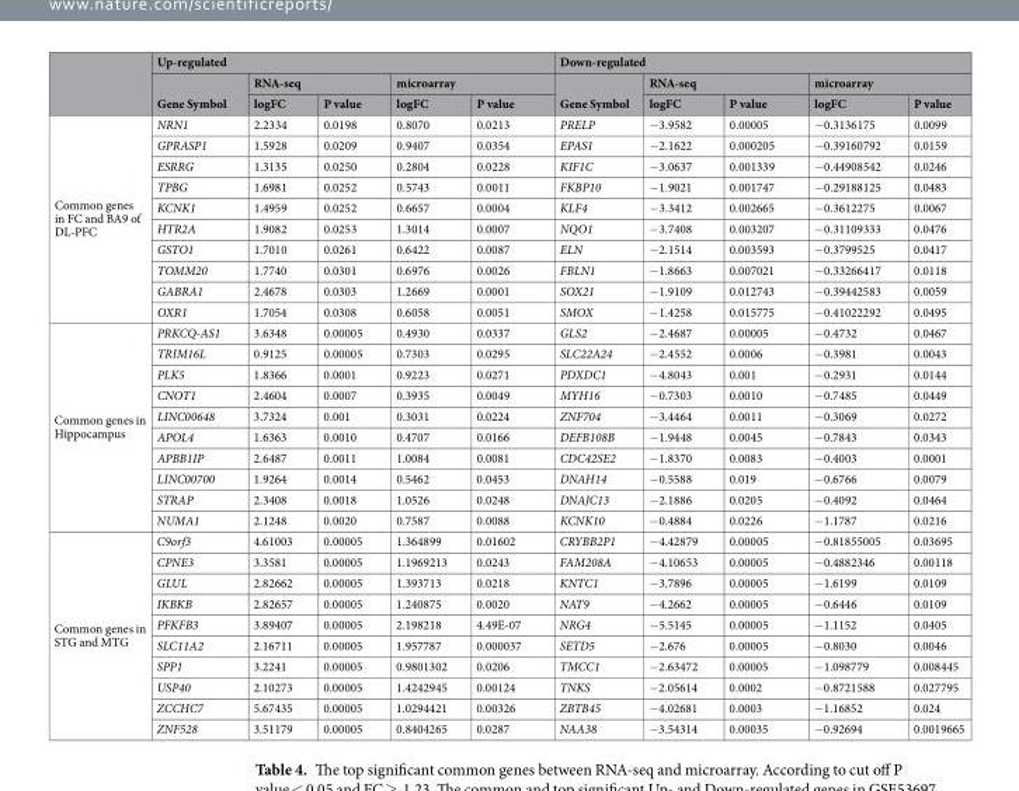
<table><thead><tr><td rowspan="3"></td><td colspan="5">Up-regulated</td><td colspan="5">Down-regulated</td></tr><tr><td rowspan="2">Gene Symbol</td><td colspan="2">RNA-seq</td><td colspan="2">microarray</td><td rowspan="2">Gene Symbol</td><td colspan="2">RNA-seq</td><td colspan="2">microarray</td></tr><tr><td>logFC</td><td>P value</td><td>logFC</td><td>P value</td><td>logFC</td><td>P value</td><td>logFC</td><td>P value</td></tr></thead><tbody><tr><td rowspan="10">Common genes in FC and BA9 of DL-PFC</td><td>NRN1</td><td>2.2334</td><td>0.0198</td><td>0.8070</td><td>0.0213</td><td>PRELP</td><td>−3.9582</td><td>0.00005</td><td>−0.3136175</td><td>0.0099</td></tr><tr><td>GPRASP1</td><td>1.5928</td><td>0.0209</td><td>0.9407</td><td>0.0354</td><td>EPAS1</td><td>−2.1622</td><td>0.000205</td><td>−0.39160792</td><td>0.0159</td></tr><tr><td>ESRRG</td><td>1.3135</td><td>0.0250</td><td>0.2804</td><td>0.0228</td><td>KIF1C</td><td>−3.0637</td><td>0.001339</td><td>−0.44908542</td><td>0.0246</td></tr><tr><td>TPBG</td><td>1.6981</td><td>0.0252</td><td>0.5743</td><td>0.0011</td><td>FKBP10</td><td>−1.9021</td><td>0.001747</td><td>−0.29188125</td><td>0.0483</td></tr><tr><td>KCNK1</td><td>1.4959</td><td>0.0252</td><td>0.6657</td><td>0.0004</td><td>KLF4</td><td>−3.3412</td><td>0.002665</td><td>−0.3612275</td><td>0.0067</td></tr><tr><td>HTR2A</td><td>1.9082</td><td>0.0253</td><td>1.3014</td><td>0.0007</td><td>NQO1</td><td>−3.7408</td><td>0.003207</td><td>−0.31109333</td><td>0.0476</td></tr><tr><td>GSTO1</td><td>1.7010</td><td>0.0261</td><td>0.6422</td><td>0.0087</td><td>ELN</td><td>−2.1514</td><td>0.003593</td><td>−0.3799525</td><td>0.0417</td></tr><tr><td>TOMM20</td><td>1.7740</td><td>0.0301</td><td>0.6976</td><td>0.0026</td><td>FBLN1</td><td>−1.8663</td><td>0.007021</td><td>−0.33266417</td><td>0.0118</td></tr><tr><td>GABRA1</td><td>2.4678</td><td>0.0303</td><td>1.2669</td><td>0.0001</td><td>SOX21</td><td>−1.9109</td><td>0.012743</td><td>−0.39442583</td><td>0.0059</td></tr><tr><td>OXR1</td><td>1.7054</td><td>0.0308</td><td>0.6058</td><td>0.0051</td><td>SMOX</td><td>−1.4258</td><td>0.015775</td><td>−0.41022292</td><td>0.0495</td></tr><tr><td rowspan="10">Common genes in Hippocampus</td><td>PRKCQ-AS1</td><td>3.6348</td><td>0.00005</td><td>0.4930</td><td>0.0337</td><td>GLS2</td><td>−2.4687</td><td>0.00005</td><td>−0.4732</td><td>0.0467</td></tr><tr><td>TRIM16L</td><td>0.9125</td><td>0.00005</td><td>0.7303</td><td>0.0295</td><td>SLC22A24</td><td>−2.4552</td><td>0.0006</td><td>−0.3981</td><td>0.0043</td></tr><tr><td>PLK5</td><td>1.8366</td><td>0.0001</td><td>0.9223</td><td>0.0271</td><td>PDXDC1</td><td>−4.8043</td><td>0.001</td><td>−0.2931</td><td>0.0144</td></tr><tr><td>CNOT1</td><td>2.4604</td><td>0.0007</td><td>0.3935</td><td>0.0049</td><td>MYH16</td><td>−0.7303</td><td>0.0010</td><td>−0.7485</td><td>0.0449</td></tr><tr><td>LINC00648</td><td>3.7324</td><td>0.001</td><td>0.3031</td><td>0.0224</td><td>ZNF704</td><td>−3.4464</td><td>0.0011</td><td>−0.3069</td><td>0.0272</td></tr><tr><td>APOL4</td><td>1.6363</td><td>0.0010</td><td>0.4707</td><td>0.0166</td><td>DEFB108B</td><td>−1.9448</td><td>0.0045</td><td>−0.7843</td><td>0.0343</td></tr><tr><td>APBB1IP</td><td>2.6487</td><td>0.0011</td><td>1.0084</td><td>0.0081</td><td>CDC42SE2</td><td>−1.8370</td><td>0.0083</td><td>−0.4003</td><td>0.0001</td></tr><tr><td>LINC00700</td><td>1.9264</td><td>0.0014</td><td>0.5462</td><td>0.0453</td><td>DNAH14</td><td>−0.5588</td><td>0.019</td><td>−0.6766</td><td>0.0079</td></tr><tr><td>STRAP</td><td>2.3408</td><td>0.0018</td><td>1.0526</td><td>0.0248</td><td>DNAJC13</td><td>−2.1886</td><td>0.0205</td><td>−0.4092</td><td>0.0464</td></tr><tr><td>NUMA1</td><td>2.1248</td><td>0.0020</td><td>0.7587</td><td>0.0088</td><td>KCNK10</td><td>−0.4884</td><td>0.0226</td><td>−1.1787</td><td>0.0216</td></tr><tr><td rowspan="10">Common genes in STG and MTG</td><td>C9orf3</td><td>4.61003</td><td>0.00005</td><td>1.364899</td><td>0.01602</td><td>CRYBB2P1</td><td>−4.42879</td><td>0.00005</td><td>−0.81855005</td><td>0.03695</td></tr><tr><td>CPNE3</td><td>3.3581</td><td>0.00005</td><td>1.1969213</td><td>0.0243</td><td>FAM208A</td><td>−4.10653</td><td>0.00005</td><td>−0.4882346</td><td>0.00118</td></tr><tr><td>GLUL</td><td>2.82662</td><td>0.00005</td><td>1.393713</td><td>0.0218</td><td>KNTC1</td><td>−3.7896</td><td>0.00005</td><td>−1.6199</td><td>0.0109</td></tr><tr><td>IKBKB</td><td>2.82657</td><td>0.00005</td><td>1.240875</td><td>0.0020</td><td>NAT9</td><td>−4.2662</td><td>0.00005</td><td>−0.6446</td><td>0.0109</td></tr><tr><td>PFKFB3</td><td>3.89407</td><td>0.00005</td><td>2.198218</td><td>4.49E-07</td><td>NRG4</td><td>−5.5145</td><td>0.00005</td><td>−1.1152</td><td>0.0405</td></tr><tr><td>SLC11A2</td><td>2.16711</td><td>0.00005</td><td>1.957787</td><td>0.000037</td><td>SETD5</td><td>−2.676</td><td>0.00005</td><td>−0.8030</td><td>0.0046</td></tr><tr><td>SPP1</td><td>3.2241</td><td>0.00005</td><td>0.9801302</td><td>0.0206</td><td>TMCC1</td><td>−2.63472</td><td>0.00005</td><td>−1.098779</td><td>0.008445</td></tr><tr><td>USP40</td><td>2.10273</td><td>0.00005</td><td>1.4242945</td><td>0.00124</td><td>TNKS</td><td>−2.05614</td><td>0.0002</td><td>−0.8721588</td><td>0.027795</td></tr><tr><td>ZCCHC7</td><td>5.67435</td><td>0.00005</td><td>1.0294421</td><td>0.00326</td><td>ZBTB45</td><td>−4.02681</td><td>0.0003</td><td>−1.16852</td><td>0.024</td></tr><tr><td>ZNF528</td><td>3.51179</td><td>0.00005</td><td>0.8404265</td><td>0.0287</td><td>NAA38</td><td>−3.54314</td><td>0.00035</td><td>−0.92694</td><td>0.0019665</td></tr></tbody></table>